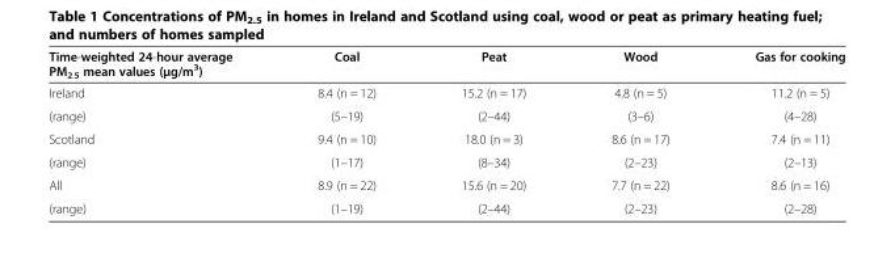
<table><thead><tr><td>Time-weighted 24-hour average PM<sub>2.5</sub> mean values (μg/m<sup>3</sup>)</td><td>Coal</td><td>Peat</td><td>Wood</td><td>Gas for cooking</td></tr></thead><tbody><tr><td>Ireland</td><td>8.4 (n = 12)</td><td>15.2 (n = 17)</td><td>4.8 (n = 5)</td><td>11.2 (n = 5)</td></tr><tr><td>(range)</td><td>(5–19)</td><td>(2–44)</td><td>(3–6)</td><td>(4–28)</td></tr><tr><td>Scotland</td><td>9.4 (n = 10)</td><td>18.0 (n = 3)</td><td>8.6 (n = 17)</td><td>7.4 (n = 11)</td></tr><tr><td>(range)</td><td>(1–17)</td><td>(8–34)</td><td>(2–23)</td><td>(2–13)</td></tr><tr><td>All</td><td>8.9 (n = 22)</td><td>15.6 (n = 20)</td><td>7.7 (n = 22)</td><td>8.6 (n = 16)</td></tr><tr><td>(range)</td><td>(1–19)</td><td>(2–44)</td><td>(2–23)</td><td>(2–28)</td></tr></tbody></table>